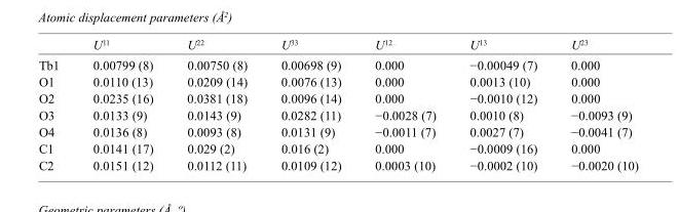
<table><thead><tr><td></td><td>U<sup>11</sup></td><td>U<sup>22</sup></td><td>U<sup>33</sup></td><td>U<sup>12</sup></td><td>U<sup>13</sup></td><td>U<sup>23</sup></td></tr></thead><tbody><tr><td>Tb1</td><td>0.00799 (8)</td><td>0.00750 (8)</td><td>0.00698 (9)</td><td>0.000</td><td>−0.00049 (7)</td><td>0.000</td></tr><tr><td>O1</td><td>0.0110 (13)</td><td>0.0209 (14)</td><td>0.0076 (13)</td><td>0.000</td><td>0.0013 (10)</td><td>0.000</td></tr><tr><td>O2</td><td>0.0235 (16)</td><td>0.0381 (18)</td><td>0.0096 (14)</td><td>0.000</td><td>−0.0010 (12)</td><td>0.000</td></tr><tr><td>O3</td><td>0.0133 (9)</td><td>0.0143 (9)</td><td>0.0282 (11)</td><td>−0.0028 (7)</td><td>0.0010 (8)</td><td>−0.0093 (9)</td></tr><tr><td>O4</td><td>0.0136 (8)</td><td>0.0093 (8)</td><td>0.0131 (9)</td><td>−0.0011 (7)</td><td>0.0027 (7)</td><td>−0.0041 (7)</td></tr><tr><td>C1</td><td>0.0141 (17)</td><td>0.029 (2)</td><td>0.016 (2)</td><td>0.000</td><td>−0.0009 (16)</td><td>0.000</td></tr><tr><td>C2</td><td>0.0151 (12)</td><td>0.0112 (11)</td><td>0.0109 (12)</td><td>0.0003 (10)</td><td>−0.0002 (10)</td><td>−0.0020 (10)</td></tr></tbody></table>